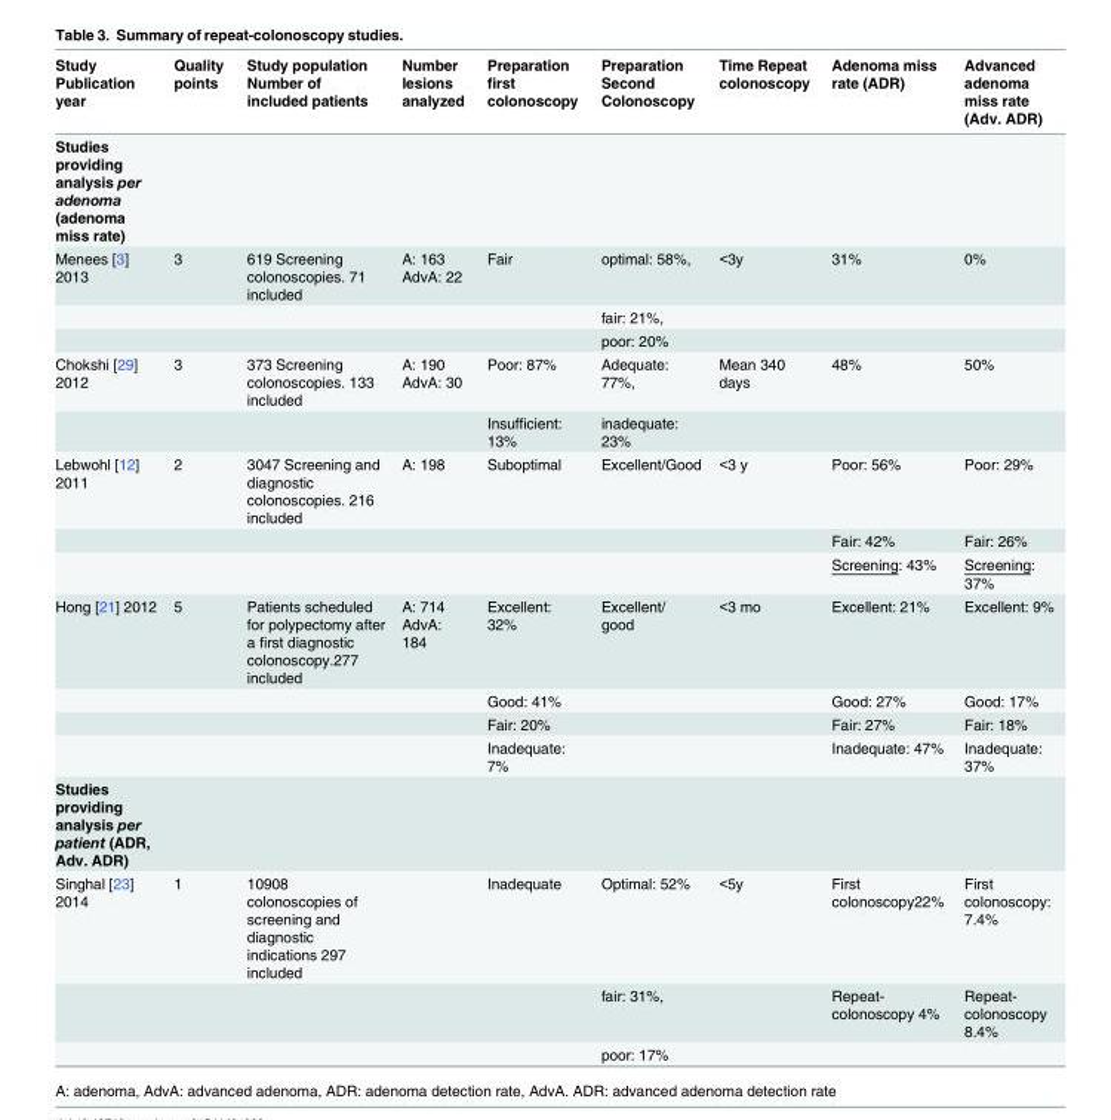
<table><thead><tr><td>Study Publication year</td><td>Quality points</td><td>Study population Number of included patients</td><td>Number lesions analyzed</td><td>Preparation first colonoscopy</td><td>Preparation Second Colonoscopy</td><td>Time Repeat colonoscopy</td><td>Adenoma miss rate (ADR)</td><td>Advanced adenoma miss rate (Adv. ADR)</td></tr></thead><tbody><tr><td colspan="9">Studies providing analysis per adenoma (adenoma miss rate)</td></tr><tr><td rowspan="3">Menees [3] 2013</td><td>3</td><td>619 Screening colonoscopies. 71 included</td><td>A: 163 AdvA: 22</td><td>Fair</td><td>optimal: 58%,</td><td>&lt;3y</td><td>31%</td><td>0%</td></tr><tr><td></td><td></td><td></td><td></td><td>fair: 21%,</td><td></td><td></td><td></td></tr><tr><td></td><td></td><td></td><td></td><td>poor: 20%</td><td></td><td></td><td></td></tr><tr><td rowspan="2">Chokshi [29] 2012</td><td>3</td><td>373 Screening colonoscopies. 133 included</td><td>A: 190 AdvA: 30</td><td>Poor: 87%</td><td>Adequate: 77%,</td><td>Mean 340 days</td><td>48%</td><td>50%</td></tr><tr><td></td><td></td><td></td><td>Insufficient: 13%</td><td>inadequate: 23%</td><td></td><td></td><td></td></tr><tr><td rowspan="3">Lebwohl [12] 2011</td><td>2</td><td>3047 Screening and diagnostic colonoscopies. 216 included</td><td>A: 198</td><td>Suboptimal</td><td>Excellent/Good</td><td>&lt;3 y</td><td>Poor: 56%</td><td>Poor: 29%</td></tr><tr><td></td><td></td><td></td><td></td><td></td><td></td><td>Fair: 42%</td><td>Fair: 26%</td></tr><tr><td></td><td></td><td></td><td></td><td></td><td></td><td>Screening: 43%</td><td>Screening: 37%</td></tr><tr><td rowspan="4">Hong [21] 2012</td><td>5</td><td>Patients scheduled for polypectomy after a first diagnostic colonoscopy.277 included</td><td>A: 714 AdvA: 184</td><td>Excellent: 32%</td><td>Excellent/ good</td><td>&lt;3 mo</td><td>Excellent: 21%</td><td>Excellent: 9%</td></tr><tr><td></td><td></td><td></td><td>Good: 41%</td><td></td><td></td><td>Good: 27%</td><td>Good: 17%</td></tr><tr><td></td><td></td><td></td><td>Fair: 20%</td><td></td><td></td><td>Fair: 27%</td><td>Fair: 18%</td></tr><tr><td></td><td></td><td></td><td>Inadequate: 7%</td><td></td><td></td><td>Inadequate: 47%</td><td>Inadequate: 37%</td></tr><tr><td colspan="9">Studies providing analysis per patient (ADR, Adv. ADR)</td></tr><tr><td rowspan="3">Singhal [23] 2014</td><td>1</td><td>10908 colonoscopies of screening and diagnostic indications 297 included</td><td></td><td>Inadequate</td><td>Optimal: 52%</td><td>&lt;5y</td><td>First colonoscopy22%</td><td>First colonoscopy: 7.4%</td></tr><tr><td></td><td></td><td></td><td></td><td>fair: 31%,</td><td></td><td>Repeat- colonoscopy 4%</td><td>Repeat- colonoscopy 8.4%</td></tr><tr><td></td><td></td><td></td><td></td><td>poor: 17%</td><td></td><td></td><td></td></tr></tbody></table>